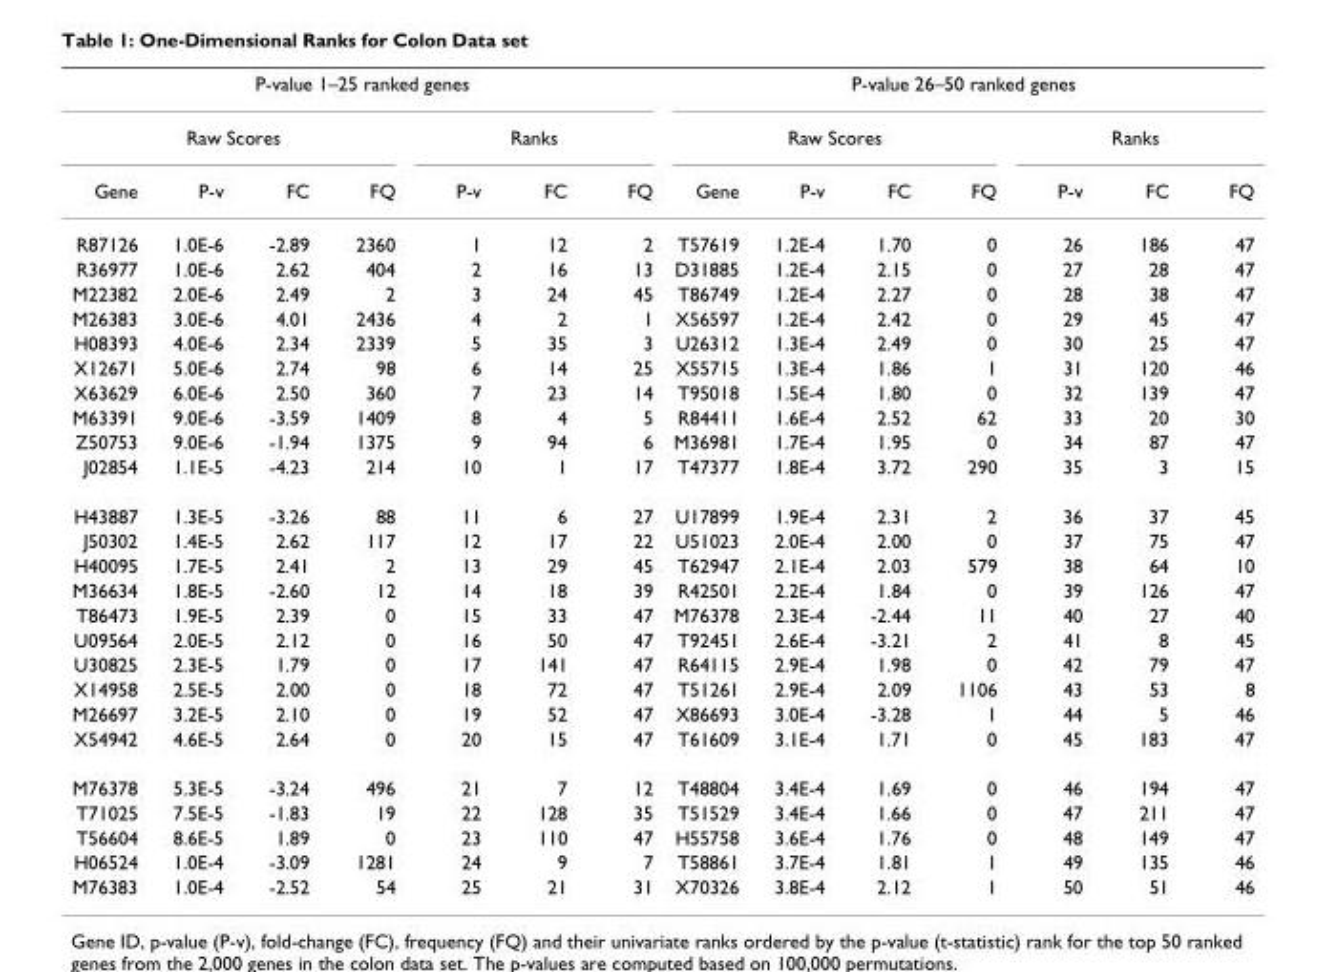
<table><thead><tr><td colspan="7">P-value 1–25 ranked genes</td><td colspan="7">P-value 26–50 ranked genes</td></tr><tr><td colspan="4">Raw Scores</td><td colspan="3">Ranks</td><td colspan="4">Raw Scores</td><td colspan="3">Ranks</td></tr><tr><td>Gene</td><td>P-v</td><td>FC</td><td>FQ</td><td>P-v</td><td>FC</td><td>FQ</td><td>Gene</td><td>P-v</td><td>FC</td><td>FQ</td><td>P-v</td><td>FC</td><td>FQ</td></tr></thead><tbody><tr><td>R87126</td><td>1.0E-6</td><td>-2.89</td><td>2360</td><td>1</td><td>12</td><td>2</td><td>T57619</td><td>1.2E-4</td><td>1.70</td><td>0</td><td>26</td><td>186</td><td>47</td></tr><tr><td>R36977</td><td>1.0E-6</td><td>2.62</td><td>404</td><td>2</td><td>16</td><td>13</td><td>D31885</td><td>1.2E-4</td><td>2.15</td><td>0</td><td>27</td><td>28</td><td>47</td></tr><tr><td>M22382</td><td>2.0E-6</td><td>2.49</td><td>2</td><td>3</td><td>24</td><td>45</td><td>T86749</td><td>1.2E-4</td><td>2.27</td><td>0</td><td>28</td><td>38</td><td>47</td></tr><tr><td>M26383</td><td>3.0E-6</td><td>4.01</td><td>2436</td><td>4</td><td>2</td><td>1</td><td>X56597</td><td>1.2E-4</td><td>2.42</td><td>0</td><td>29</td><td>45</td><td>47</td></tr><tr><td>H08393</td><td>4.0E-6</td><td>2.34</td><td>2339</td><td>5</td><td>35</td><td>3</td><td>U26312</td><td>1.3E-4</td><td>2.49</td><td>0</td><td>30</td><td>25</td><td>47</td></tr><tr><td>X12671</td><td>5.0E-6</td><td>2.74</td><td>98</td><td>6</td><td>14</td><td>25</td><td>X55715</td><td>1.3E-4</td><td>1.86</td><td>1</td><td>31</td><td>120</td><td>46</td></tr><tr><td>X63629</td><td>6.0E-6</td><td>2.50</td><td>360</td><td>7</td><td>23</td><td>14</td><td>T95018</td><td>1.5E-4</td><td>1.80</td><td>0</td><td>32</td><td>139</td><td>47</td></tr><tr><td>M63391</td><td>9.0E-6</td><td>-3.59</td><td>1409</td><td>8</td><td>4</td><td>5</td><td>R84411</td><td>1.6E-4</td><td>2.52</td><td>62</td><td>33</td><td>20</td><td>30</td></tr><tr><td>Z50753</td><td>9.0E-6</td><td>-1.94</td><td>1375</td><td>9</td><td>94</td><td>6</td><td>M36981</td><td>1.7E-4</td><td>1.95</td><td>0</td><td>34</td><td>87</td><td>47</td></tr><tr><td>J02854</td><td>1.1E-5</td><td>-4.23</td><td>214</td><td>10</td><td>1</td><td>17</td><td>T47377</td><td>1.8E-4</td><td>3.72</td><td>290</td><td>35</td><td>3</td><td>15</td></tr><tr><td>H43887</td><td>1.3E-5</td><td>-3.26</td><td>88</td><td>11</td><td>6</td><td>27</td><td>U17899</td><td>1.9E-4</td><td>2.31</td><td>2</td><td>36</td><td>37</td><td>45</td></tr><tr><td>J50302</td><td>1.4E-5</td><td>2.62</td><td>117</td><td>12</td><td>17</td><td>22</td><td>U51023</td><td>2.0E-4</td><td>2.00</td><td>0</td><td>37</td><td>75</td><td>47</td></tr><tr><td>H40095</td><td>1.7E-5</td><td>2.41</td><td>2</td><td>13</td><td>29</td><td>45</td><td>T62947</td><td>2.1E-4</td><td>2.03</td><td>579</td><td>38</td><td>64</td><td>10</td></tr><tr><td>M36634</td><td>1.8E-5</td><td>-2.60</td><td>12</td><td>14</td><td>18</td><td>39</td><td>R42501</td><td>2.2E-4</td><td>1.84</td><td>0</td><td>39</td><td>126</td><td>47</td></tr><tr><td>T86473</td><td>1.9E-5</td><td>2.39</td><td>0</td><td>15</td><td>33</td><td>47</td><td>M76378</td><td>2.3E-4</td><td>-2.44</td><td>11</td><td>40</td><td>27</td><td>40</td></tr><tr><td>U09564</td><td>2.0E-5</td><td>2.12</td><td>0</td><td>16</td><td>50</td><td>47</td><td>T92451</td><td>2.6E-4</td><td>-3.21</td><td>2</td><td>41</td><td>8</td><td>45</td></tr><tr><td>U30825</td><td>2.3E-5</td><td>1.79</td><td>0</td><td>17</td><td>141</td><td>47</td><td>R64115</td><td>2.9E-4</td><td>1.98</td><td>0</td><td>42</td><td>79</td><td>47</td></tr><tr><td>X14958</td><td>2.5E-5</td><td>2.00</td><td>0</td><td>18</td><td>72</td><td>47</td><td>T51261</td><td>2.9E-4</td><td>2.09</td><td>1106</td><td>43</td><td>53</td><td>8</td></tr><tr><td>M26697</td><td>3.2E-5</td><td>2.10</td><td>0</td><td>19</td><td>52</td><td>47</td><td>X86693</td><td>3.0E-4</td><td>-3.28</td><td>1</td><td>44</td><td>5</td><td>46</td></tr><tr><td>X54942</td><td>4.6E-5</td><td>2.64</td><td>0</td><td>20</td><td>15</td><td>47</td><td>T61609</td><td>3.1E-4</td><td>1.71</td><td>0</td><td>45</td><td>183</td><td>47</td></tr><tr><td>M76378</td><td>5.3E-5</td><td>-3.24</td><td>496</td><td>21</td><td>7</td><td>12</td><td>T48804</td><td>3.4E-4</td><td>1.69</td><td>0</td><td>46</td><td>194</td><td>47</td></tr><tr><td>T71025</td><td>7.5E-5</td><td>-1.83</td><td>19</td><td>22</td><td>128</td><td>35</td><td>T51529</td><td>3.4E-4</td><td>1.66</td><td>0</td><td>47</td><td>211</td><td>47</td></tr><tr><td>T56604</td><td>8.6E-5</td><td>1.89</td><td>0</td><td>23</td><td>110</td><td>47</td><td>H55758</td><td>3.6E-4</td><td>1.76</td><td>0</td><td>48</td><td>149</td><td>47</td></tr><tr><td>H06524</td><td>1.0E-4</td><td>-3.09</td><td>1281</td><td>24</td><td>9</td><td>7</td><td>T58861</td><td>3.7E-4</td><td>1.81</td><td>1</td><td>49</td><td>135</td><td>46</td></tr><tr><td>M76383</td><td>1.0E-4</td><td>-2.52</td><td>54</td><td>25</td><td>21</td><td>31</td><td>X70326</td><td>3.8E-4</td><td>2.12</td><td>1</td><td>50</td><td>51</td><td>46</td></tr></tbody></table>